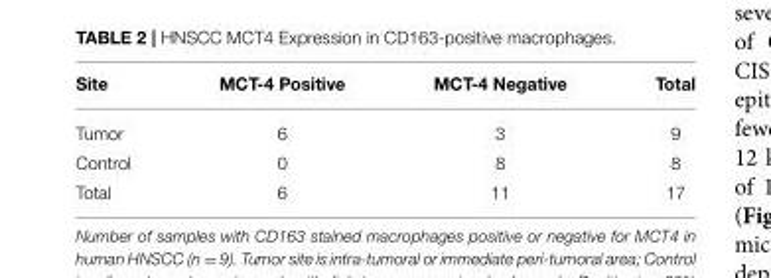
<table><thead><tr><td>Site</td><td>MCT-4 Positive</td><td>MCT-4 Negative</td><td>Total</td></tr></thead><tbody><tr><td>Tumor</td><td>6</td><td>3</td><td>9</td></tr><tr><td>Control</td><td>0</td><td>8</td><td>8</td></tr><tr><td>Total</td><td>6</td><td>11</td><td>17</td></tr></tbody></table>